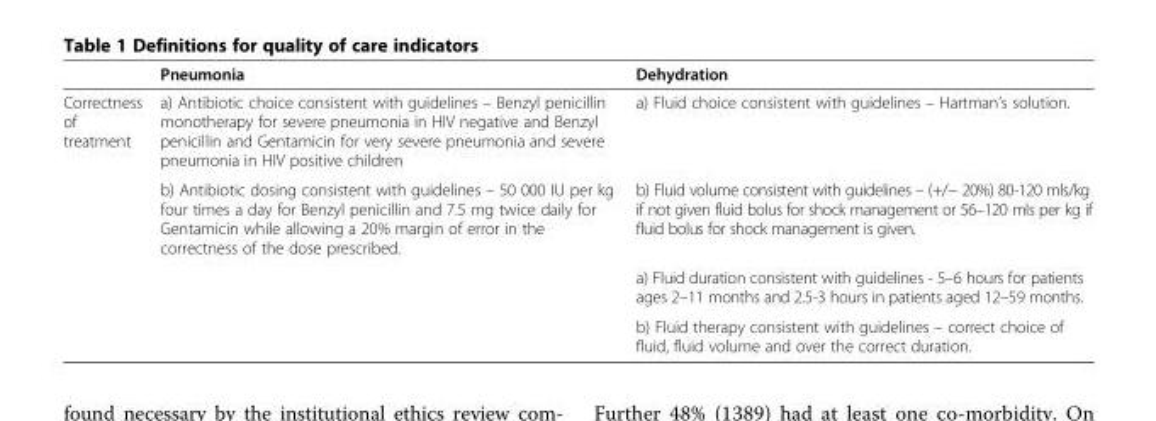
<table><thead><tr><td></td><td>Pneumonia</td><td>Dehydration</td></tr></thead><tbody><tr><td rowspan="4">Correctness of treatment</td><td>a) Antibiotic choice consistent with guidelines – Benzyl penicillin monotherapy for severe pneumonia in HIV negative and Benzyl penicillin and Gentamicin for very severe pneumonia and severe pneumonia in HIV positive children</td><td>a) Fluid choice consistent with guidelines – Hartman’s solution.</td></tr><tr><td>b) Antibiotic dosing consistent with guidelines – 50 000 IU per kg four times a day for Benzyl penicillin and 7.5 mg twice daily for Gentamicin while allowing a 20% margin of error in the correctness of the dose prescribed.</td><td>b) Fluid volume consistent with guidelines – (+/− 20%) 80-120 mls/kg if not given fluid bolus for shock management or 56–120 mls per kg if fluid bolus for shock management is given.</td></tr><tr><td></td><td>a) Fluid duration consistent with guidelines - 5–6 hours for patients ages 2–11 months and 2.5-3 hours in patients aged 12–59 months.</td></tr><tr><td></td><td>b) Fluid therapy consistent with guidelines – correct choice of fluid, fluid volume and over the correct duration.</td></tr></tbody></table>